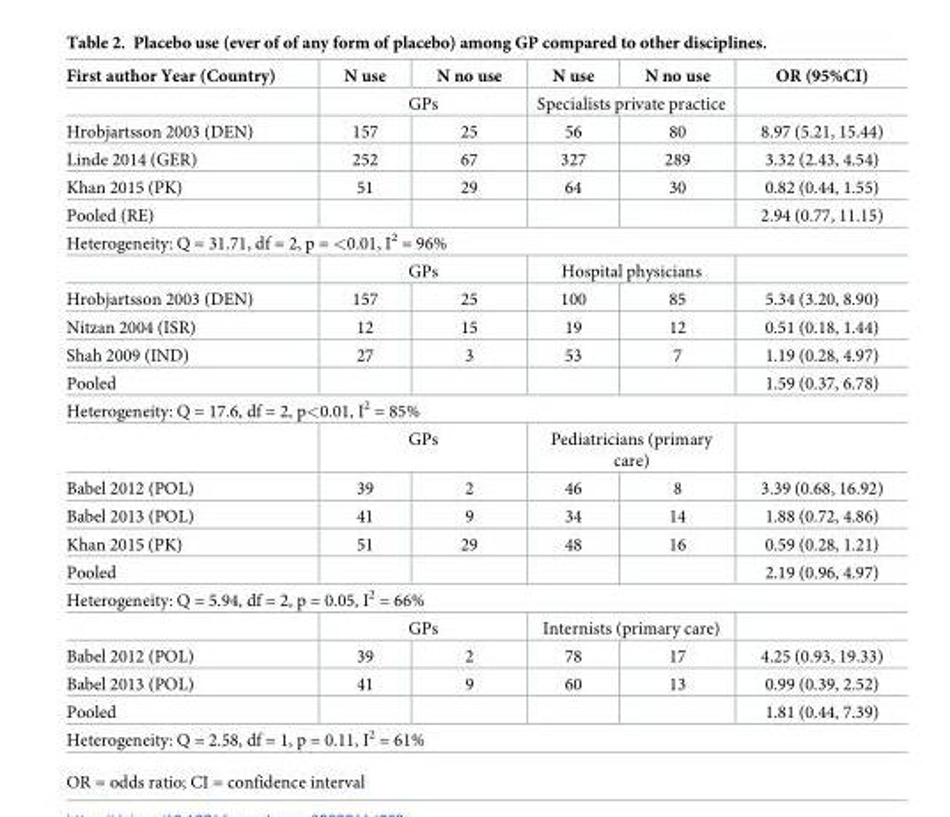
<table><thead><tr><td>First author Year (Country)</td><td>N use</td><td>N no use</td><td>N use</td><td>N no use</td><td>OR (95%CI)</td></tr></thead><tbody><tr><td></td><td colspan="2">GPs</td><td colspan="2">Specialists private practice</td><td></td></tr><tr><td>Hrobjartsson 2003 (DEN)</td><td>157</td><td>25</td><td>56</td><td>80</td><td>8.97 (5.21, 15.44)</td></tr><tr><td>Linde 2014 (GER)</td><td>252</td><td>67</td><td>327</td><td>289</td><td>3.32 (2.43, 4.54)</td></tr><tr><td>Khan 2015 (PK)</td><td>51</td><td>29</td><td>64</td><td>30</td><td>0.82 (0.44, 1.55)</td></tr><tr><td>Pooled (RE)</td><td></td><td></td><td></td><td></td><td>2.94 (0.77, 11.15)</td></tr><tr><td colspan="6">Heterogeneity: Q = 31.71, df = 2, p = &lt;0.01, I<sup>2</sup> = 96%</td></tr><tr><td></td><td colspan="2">GPs</td><td colspan="2">Hospital physicians</td><td></td></tr><tr><td>Hrobjartsson 2003 (DEN)</td><td>157</td><td>25</td><td>100</td><td>85</td><td>5.34 (3.20, 8.90)</td></tr><tr><td>Nitzan 2004 (ISR)</td><td>12</td><td>15</td><td>19</td><td>12</td><td>0.51 (0.18, 1.44)</td></tr><tr><td>Shah 2009 (IND)</td><td>27</td><td>3</td><td>53</td><td>7</td><td>1.19 (0.28, 4.97)</td></tr><tr><td>Pooled</td><td></td><td></td><td></td><td></td><td>1.59 (0.37, 6.78)</td></tr><tr><td colspan="6">Heterogeneity: Q = 17.6, df = 2, p&lt;0.01, I<sup>2</sup> = 85%</td></tr><tr><td></td><td colspan="2">GPs</td><td colspan="2">Pediatricians (primary care)</td><td></td></tr><tr><td>Babel 2012 (POL)</td><td>39</td><td>2</td><td>46</td><td>8</td><td>3.39 (0.68, 16.92)</td></tr><tr><td>Babel 2013 (POL)</td><td>41</td><td>9</td><td>34</td><td>14</td><td>1.88 (0.72, 4.86)</td></tr><tr><td>Khan 2015 (PK)</td><td>51</td><td>29</td><td>48</td><td>16</td><td>0.59 (0.28, 1.21)</td></tr><tr><td>Pooled</td><td></td><td></td><td></td><td></td><td>2.19 (0.96, 4.97)</td></tr><tr><td colspan="6">Heterogeneity: Q = 5.94, df = 2, p = 0.05, I<sup>2</sup> = 66%</td></tr><tr><td></td><td colspan="2">GPs</td><td colspan="2">Internists (primary care)</td><td></td></tr><tr><td>Babel 2012 (POL)</td><td>39</td><td>2</td><td>78</td><td>17</td><td>4.25 (0.93, 19.33)</td></tr><tr><td>Babel 2013 (POL)</td><td>41</td><td>9</td><td>60</td><td>13</td><td>0.99 (0.39, 2.52)</td></tr><tr><td>Pooled</td><td></td><td></td><td></td><td></td><td>1.81 (0.44, 7.39)</td></tr><tr><td colspan="6">Heterogeneity: Q = 2.58, df = 1, p = 0.11, I<sup>2</sup> = 61%</td></tr></tbody></table>